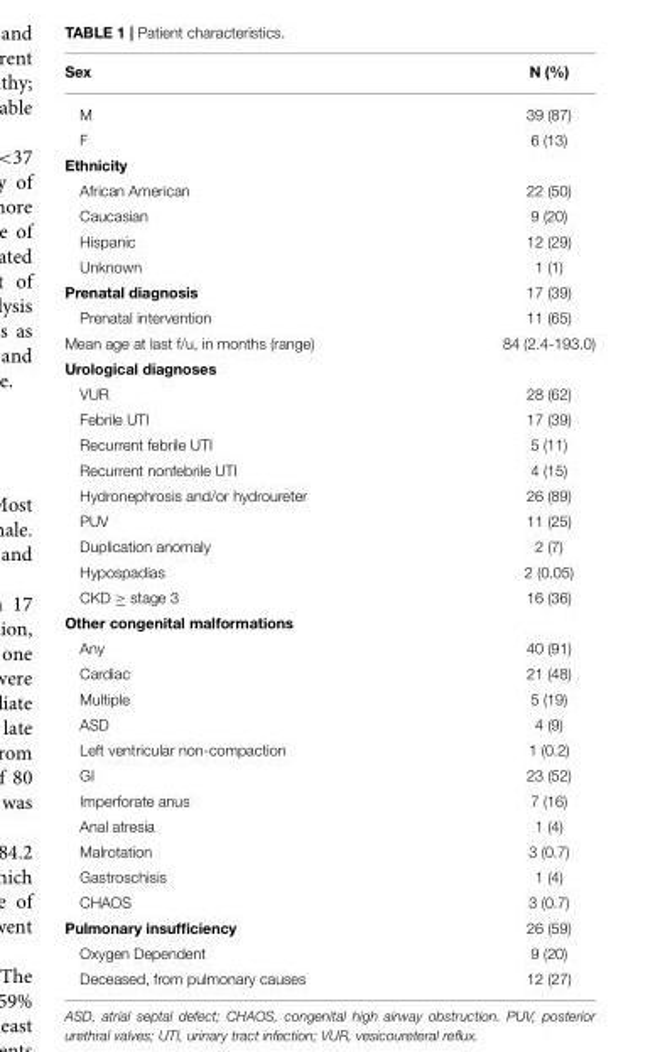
<table><thead><tr><td>Sex</td><td>N (%)</td></tr></thead><tbody><tr><td>M</td><td>39 (87)</td></tr><tr><td>F</td><td>6 (13)</td></tr><tr><td colspan="2">Ethnicity</td></tr><tr><td>African American</td><td>22 (50)</td></tr><tr><td>Caucasian</td><td>9 (20)</td></tr><tr><td>Hispanic</td><td>12 (29)</td></tr><tr><td>Unknown</td><td>1 (1)</td></tr><tr><td>Prenatal diagnosis</td><td>17 (39)</td></tr><tr><td>Prenatal intervention</td><td>11 (65)</td></tr><tr><td>Mean age at last f/u, in months (range)</td><td>84 (2.4-193.0)</td></tr><tr><td colspan="2">Urological diagnoses</td></tr><tr><td>VUR</td><td>28 (62)</td></tr><tr><td>Febrile UTI</td><td>17 (39)</td></tr><tr><td>Recurrent febrile UTI</td><td>5 (11)</td></tr><tr><td>Recurrent nonfebrile UTI</td><td>4 (15)</td></tr><tr><td>Hydronephrosis and/or hydroureter</td><td>26 (89)</td></tr><tr><td>PUV</td><td>11 (25)</td></tr><tr><td>Duplication anomaly</td><td>2 (7)</td></tr><tr><td>Hypospadias</td><td>2 (0.05)</td></tr><tr><td>CKD ≥ stage 3</td><td>16 (36)</td></tr><tr><td colspan="2">Other congenital malformations</td></tr><tr><td>Any</td><td>40 (91)</td></tr><tr><td>Cardiac</td><td>21 (48)</td></tr><tr><td>Multiple</td><td>5 (19)</td></tr><tr><td>ASD</td><td>4 (9)</td></tr><tr><td>Left ventricular non-compaction</td><td>1 (0.2)</td></tr><tr><td>GI</td><td>23 (52)</td></tr><tr><td>Imperforate anus</td><td>7 (16)</td></tr><tr><td>Anal atresia</td><td>1 (4)</td></tr><tr><td>Malrotation</td><td>3 (0.7)</td></tr><tr><td>Gastroschisis</td><td>1 (4)</td></tr><tr><td>CHAOS</td><td>3 (0.7)</td></tr><tr><td>Pulmonary insufficiency</td><td>26 (59)</td></tr><tr><td>Oxygen Dependent</td><td>9 (20)</td></tr><tr><td>Deceased, from pulmonary causes</td><td>12 (27)</td></tr></tbody></table>